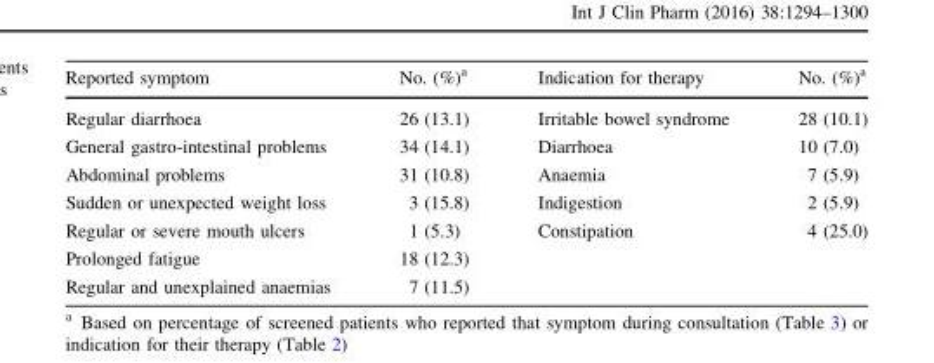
<table><thead><tr><td>Reported symptom</td><td>No. (%)<sup>a</sup></td><td>Indication for therapy</td><td>No. (%)<sup>a</sup></td></tr></thead><tbody><tr><td>Regular diarrhoea</td><td>26 (13.1)</td><td>Irritable bowel syndrome</td><td>28 (10.1)</td></tr><tr><td>General gastro-intestinal problems</td><td>34 (14.1)</td><td>Diarrhoea</td><td>10 (7.0)</td></tr><tr><td>Abdominal problems</td><td>31 (10.8)</td><td>Anaemia</td><td>7 (5.9)</td></tr><tr><td>Sudden or unexpected weight loss</td><td>3 (15.8)</td><td>Indigestion</td><td>2 (5.9)</td></tr><tr><td>Regular or severe mouth ulcers</td><td>1 (5.3)</td><td>Constipation</td><td>4 (25.0)</td></tr><tr><td>Prolonged fatigue</td><td>18 (12.3)</td><td></td><td></td></tr><tr><td>Regular and unexplained anaemias</td><td>7 (11.5)</td><td></td><td></td></tr></tbody></table>